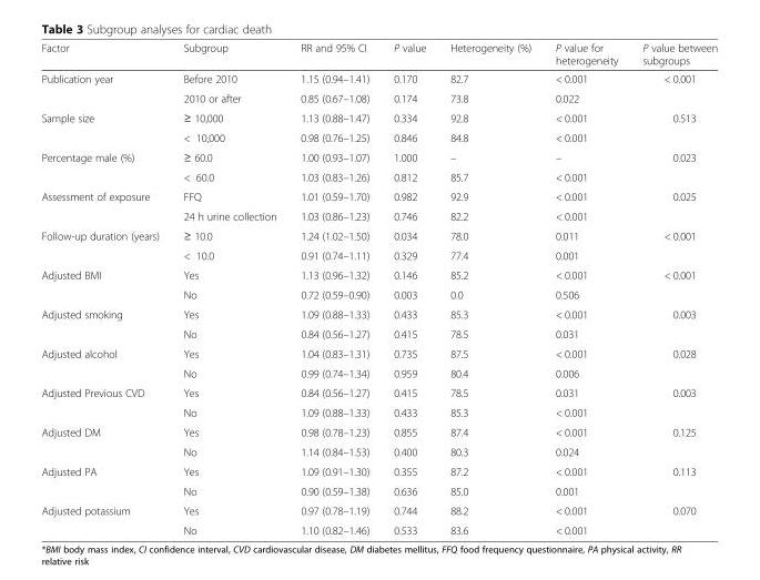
<table><thead><tr><td>Factor</td><td>Subgroup</td><td>RR and 95% CI</td><td>P value</td><td>Heterogeneity (%)</td><td>P value for heterogeneity</td><td>P value between subgroups</td></tr></thead><tbody><tr><td rowspan="2">Publication year</td><td>Before 2010</td><td>1.15 (0.94–1.41)</td><td>0.170</td><td>82.7</td><td>&lt; 0.001</td><td rowspan="2">&lt; 0.001</td></tr><tr><td>2010 or after</td><td>0.85 (0.67–1.08)</td><td>0.174</td><td>73.8</td><td>0.022</td></tr><tr><td rowspan="2">Sample size</td><td>≥ 10,000</td><td>1.13 (0.88–1.47)</td><td>0.334</td><td>92.8</td><td>&lt; 0.001</td><td rowspan="2">0.513</td></tr><tr><td>&lt; 10,000</td><td>0.98 (0.76–1.25)</td><td>0.846</td><td>84.8</td><td>&lt; 0.001</td></tr><tr><td rowspan="2">Percentage male (%)</td><td>≥ 60.0</td><td>1.00 (0.93–1.07)</td><td>1.000</td><td>–</td><td>–</td><td rowspan="2">0.023</td></tr><tr><td>&lt; 60.0</td><td>1.03 (0.83–1.26)</td><td>0.812</td><td>85.7</td><td>&lt; 0.001</td></tr><tr><td rowspan="2">Assessment of exposure</td><td>FFQ</td><td>1.01 (0.59–1.70)</td><td>0.982</td><td>92.9</td><td>&lt; 0.001</td><td rowspan="2">0.025</td></tr><tr><td>24 h urine collection</td><td>1.03 (0.86–1.23)</td><td>0.746</td><td>82.2</td><td>&lt; 0.001</td></tr><tr><td rowspan="2">Follow-up duration (years)</td><td>≥ 10.0</td><td>1.24 (1.02–1.50)</td><td>0.034</td><td>78.0</td><td>0.011</td><td rowspan="2">&lt; 0.001</td></tr><tr><td>&lt; 10.0</td><td>0.91 (0.74–1.11)</td><td>0.329</td><td>77.4</td><td>0.001</td></tr><tr><td rowspan="2">Adjusted BMI</td><td>Yes</td><td>1.13 (0.96–1.32)</td><td>0.146</td><td>85.2</td><td>&lt; 0.001</td><td rowspan="2">&lt; 0.001</td></tr><tr><td>No</td><td>0.72 (0.59–0.90)</td><td>0.003</td><td>0.0</td><td>0.506</td></tr><tr><td rowspan="2">Adjusted smoking</td><td>Yes</td><td>1.09 (0.88–1.33)</td><td>0.433</td><td>85.3</td><td>&lt; 0.001</td><td rowspan="2">0.003</td></tr><tr><td>No</td><td>0.84 (0.56–1.27)</td><td>0.415</td><td>78.5</td><td>0.031</td></tr><tr><td rowspan="2">Adjusted alcohol</td><td>Yes</td><td>1.04 (0.83–1.31)</td><td>0.735</td><td>87.5</td><td>&lt; 0.001</td><td rowspan="2">0.028</td></tr><tr><td>No</td><td>0.99 (0.74–1.34)</td><td>0.959</td><td>80.4</td><td>0.006</td></tr><tr><td rowspan="2">Adjusted Previous CVD</td><td>Yes</td><td>0.84 (0.56–1.27)</td><td>0.415</td><td>78.5</td><td>0.031</td><td rowspan="2">0.003</td></tr><tr><td>No</td><td>1.09 (0.88–1.33)</td><td>0.433</td><td>85.3</td><td>&lt; 0.001</td></tr><tr><td rowspan="2">Adjusted DM</td><td>Yes</td><td>0.98 (0.78–1.23)</td><td>0.855</td><td>87.4</td><td>&lt; 0.001</td><td rowspan="2">0.125</td></tr><tr><td>No</td><td>1.14 (0.84–1.53)</td><td>0.400</td><td>80.3</td><td>0.024</td></tr><tr><td rowspan="2">Adjusted PA</td><td>Yes</td><td>1.09 (0.91–1.30)</td><td>0.355</td><td>87.2</td><td>&lt; 0.001</td><td rowspan="2">0.113</td></tr><tr><td>No</td><td>0.90 (0.59–1.38)</td><td>0.636</td><td>85.0</td><td>0.001</td></tr><tr><td rowspan="2">Adjusted potassium</td><td>Yes</td><td>0.97 (0.78–1.19)</td><td>0.744</td><td>88.2</td><td>&lt; 0.001</td><td rowspan="2">0.070</td></tr><tr><td>No</td><td>1.10 (0.82–1.46)</td><td>0.533</td><td>83.6</td><td>&lt; 0.001</td></tr></tbody></table>